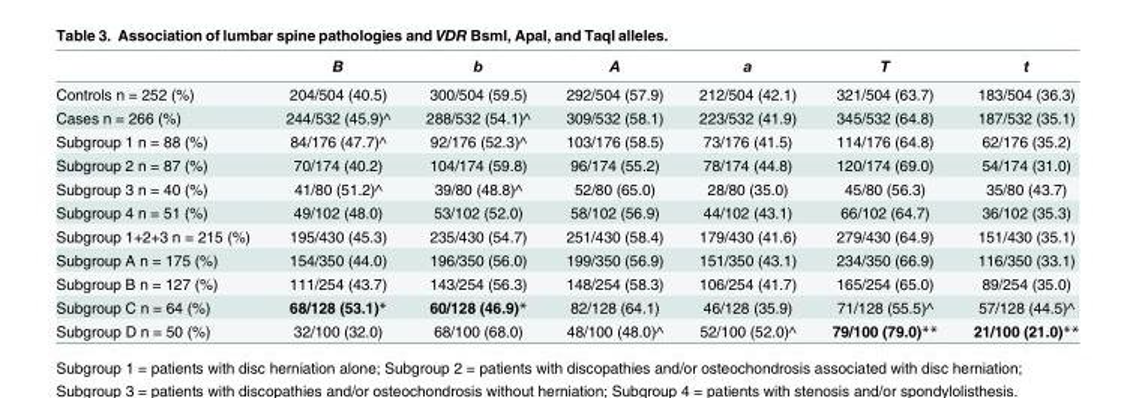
<table><thead><tr><td></td><td>B</td><td>b</td><td>A</td><td>a</td><td>T</td><td>t</td></tr></thead><tbody><tr><td>Controls n = 252 (%)</td><td>204/504 (40.5)</td><td>300/504 (59.5)</td><td>292/504 (57.9)</td><td>212/504 (42.1)</td><td>321/504 (63.7)</td><td>183/504 (36.3)</td></tr><tr><td>Cases n = 266 (%)</td><td>244/532 (45.9)^</td><td>288/532 (54.1)^</td><td>309/532 (58.1)</td><td>223/532 (41.9)</td><td>345/532 (64.8)</td><td>187/532 (35.1)</td></tr><tr><td>Subgroup 1 n = 88 (%)</td><td>84/176 (47.7)^</td><td>92/176 (52.3)^</td><td>103/176 (58.5)</td><td>73/176 (41.5)</td><td>114/176 (64.8)</td><td>62/176 (35.2)</td></tr><tr><td>Subgroup 2 n = 87 (%)</td><td>70/174 (40.2)</td><td>104/174 (59.8)</td><td>96/174 (55.2)</td><td>78/174 (44.8)</td><td>120/174 (69.0)</td><td>54/174 (31.0)</td></tr><tr><td>Subgroup 3 n = 40 (%)</td><td>41/80 (51.2)^</td><td>39/80 (48.8)^</td><td>52/80 (65.0)</td><td>28/80 (35.0)</td><td>45/80 (56.3)</td><td>35/80 (43.7)</td></tr><tr><td>Subgroup 4 n = 51 (%)</td><td>49/102 (48.0)</td><td>53/102 (52.0)</td><td>58/102 (56.9)</td><td>44/102 (43.1)</td><td>66/102 (64.7)</td><td>36/102 (35.3)</td></tr><tr><td>Subgroup 1+2+3 n = 215 (%)</td><td>195/430 (45.3)</td><td>235/430 (54.7)</td><td>251/430 (58.4)</td><td>179/430 (41.6)</td><td>279/430 (64.9)</td><td>151/430 (35.1)</td></tr><tr><td>Subgroup A n = 175 (%)</td><td>154/350 (44.0)</td><td>196/350 (56.0)</td><td>199/350 (56.9)</td><td>151/350 (43.1)</td><td>234/350 (66.9)</td><td>116/350 (33.1)</td></tr><tr><td>Subgroup B n = 127 (%)</td><td>111/254 (43.7)</td><td>143/254 (56.3)</td><td>148/254 (58.3)</td><td>106/254 (41.7)</td><td>165/254 (65.0)</td><td>89/254 (35.0)</td></tr><tr><td>Subgroup C n = 64 (%)</td><td>68/128 (53.1)*</td><td>60/128 (46.9)*</td><td>82/128 (64.1)</td><td>46/128 (35.9)</td><td>71/128 (55.5)^</td><td>57/128 (44.5)^</td></tr><tr><td>Subgroup D n = 50 (%)</td><td>32/100 (32.0)</td><td>68/100 (68.0)</td><td>48/100 (48.0)^</td><td>52/100 (52.0)^</td><td>79/100 (79.0)**</td><td>21/100 (21.0)**</td></tr></tbody></table>